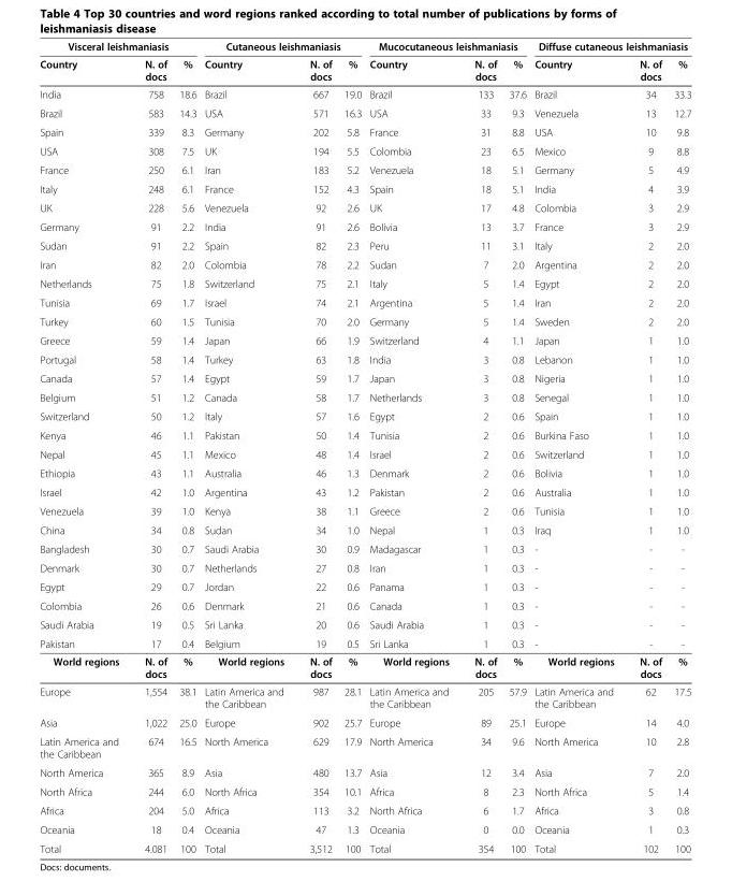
<table><thead><tr><td colspan="3">Visceral leishmaniasis</td><td colspan="3">Cutaneous leishmaniasis</td><td colspan="3">Mucocutaneous leishmaniasis</td><td colspan="3">Diffuse cutaneous leishmaniasis</td></tr><tr><td>Country</td><td>N. of docs</td><td>%</td><td>Country</td><td>N. of docs</td><td>%</td><td>Country</td><td>N. of docs</td><td>%</td><td>Country</td><td>N. of docs</td><td>%</td></tr></thead><tbody><tr><td>India</td><td>758</td><td>18.6</td><td>Brazil</td><td>667</td><td>19.0</td><td>Brazil</td><td>133</td><td>37.6</td><td>Brazil</td><td>34</td><td>33.3</td></tr><tr><td>Brazil</td><td>583</td><td>14.3</td><td>USA</td><td>571</td><td>16.3</td><td>USA</td><td>33</td><td>9.3</td><td>Venezuela</td><td>13</td><td>12.7</td></tr><tr><td>Spain</td><td>339</td><td>8.3</td><td>Germany</td><td>202</td><td>5.8</td><td>France</td><td>31</td><td>8.8</td><td>USA</td><td>10</td><td>9.8</td></tr><tr><td>USA</td><td>308</td><td>7.5</td><td>UK</td><td>194</td><td>5.5</td><td>Colombia</td><td>23</td><td>6.5</td><td>Mexico</td><td>9</td><td>8.8</td></tr><tr><td>France</td><td>250</td><td>6.1</td><td>Iran</td><td>183</td><td>5.2</td><td>Venezuela</td><td>18</td><td>5.1</td><td>Germany</td><td>5</td><td>4.9</td></tr><tr><td>Italy</td><td>248</td><td>6.1</td><td>France</td><td>152</td><td>4.3</td><td>Spain</td><td>18</td><td>5.1</td><td>India</td><td>4</td><td>3.9</td></tr><tr><td>UK</td><td>228</td><td>5.6</td><td>Venezuela</td><td>92</td><td>2.6</td><td>UK</td><td>17</td><td>4.8</td><td>Colombia</td><td>3</td><td>2.9</td></tr><tr><td>Germany</td><td>91</td><td>2.2</td><td>India</td><td>91</td><td>2.6</td><td>Bolivia</td><td>13</td><td>3.7</td><td>France</td><td>3</td><td>2.9</td></tr><tr><td>Sudan</td><td>91</td><td>2.2</td><td>Spain</td><td>82</td><td>2.3</td><td>Peru</td><td>11</td><td>3.1</td><td>Italy</td><td>2</td><td>2.0</td></tr><tr><td>Iran</td><td>82</td><td>2.0</td><td>Colombia</td><td>78</td><td>2.2</td><td>Sudan</td><td>7</td><td>2.0</td><td>Argentina</td><td>2</td><td>2.0</td></tr><tr><td>Netherlands</td><td>75</td><td>1.8</td><td>Switzerland</td><td>75</td><td>2.1</td><td>Italy</td><td>5</td><td>1.4</td><td>Egypt</td><td>2</td><td>2.0</td></tr><tr><td>Tunisia</td><td>69</td><td>1.7</td><td>Israel</td><td>74</td><td>2.1</td><td>Argentina</td><td>5</td><td>1.4</td><td>Iran</td><td>2</td><td>2.0</td></tr><tr><td>Turkey</td><td>60</td><td>1.5</td><td>Tunisia</td><td>70</td><td>2.0</td><td>Germany</td><td>5</td><td>1.4</td><td>Sweden</td><td>2</td><td>2.0</td></tr><tr><td>Greece</td><td>59</td><td>1.4</td><td>Japan</td><td>66</td><td>1.9</td><td>Switzerland</td><td>4</td><td>1.1</td><td>Japan</td><td>1</td><td>1.0</td></tr><tr><td>Portugal</td><td>58</td><td>1.4</td><td>Turkey</td><td>63</td><td>1.8</td><td>India</td><td>3</td><td>0.8</td><td>Lebanon</td><td>1</td><td>1.0</td></tr><tr><td>Canada</td><td>57</td><td>1.4</td><td>Egypt</td><td>59</td><td>1.7</td><td>Japan</td><td>3</td><td>0.8</td><td>Nigeria</td><td>1</td><td>1.0</td></tr><tr><td>Belgium</td><td>51</td><td>1.2</td><td>Canada</td><td>58</td><td>1.7</td><td>Netherlands</td><td>3</td><td>0.8</td><td>Senegal</td><td>1</td><td>1.0</td></tr><tr><td>Switzerland</td><td>50</td><td>1.2</td><td>Italy</td><td>57</td><td>1.6</td><td>Egypt</td><td>2</td><td>0.6</td><td>Spain</td><td>1</td><td>1.0</td></tr><tr><td>Kenya</td><td>46</td><td>1.1</td><td>Pakistan</td><td>50</td><td>1.4</td><td>Tunisia</td><td>2</td><td>0.6</td><td>Burkina Faso</td><td>1</td><td>1.0</td></tr><tr><td>Nepal</td><td>45</td><td>1.1</td><td>Mexico</td><td>48</td><td>1.4</td><td>Israel</td><td>2</td><td>0.6</td><td>Switzerland</td><td>1</td><td>1.0</td></tr><tr><td>Ethiopia</td><td>43</td><td>1.1</td><td>Australia</td><td>46</td><td>1.3</td><td>Denmark</td><td>2</td><td>0.6</td><td>Bolivia</td><td>1</td><td>1.0</td></tr><tr><td>Israel</td><td>42</td><td>1.0</td><td>Argentina</td><td>43</td><td>1.2</td><td>Pakistan</td><td>2</td><td>0.6</td><td>Australia</td><td>1</td><td>1.0</td></tr><tr><td>Venezuela</td><td>39</td><td>1.0</td><td>Kenya</td><td>38</td><td>1.1</td><td>Greece</td><td>2</td><td>0.6</td><td>Tunisia</td><td>1</td><td>1.0</td></tr><tr><td>China</td><td>34</td><td>0.8</td><td>Sudan</td><td>34</td><td>1.0</td><td>Nepal</td><td>1</td><td>0.3</td><td>Iraq</td><td>1</td><td>1.0</td></tr><tr><td>Bangladesh</td><td>30</td><td>0.7</td><td>Saudi Arabia</td><td>30</td><td>0.9</td><td>Madagascar</td><td>1</td><td>0.3</td><td>-</td><td>-</td><td>-</td></tr><tr><td>Denmark</td><td>30</td><td>0.7</td><td>Netherlands</td><td>27</td><td>0.8</td><td>Iran</td><td>1</td><td>0.3</td><td>-</td><td>-</td><td>-</td></tr><tr><td>Egypt</td><td>29</td><td>0.7</td><td>Jordan</td><td>22</td><td>0.6</td><td>Panama</td><td>1</td><td>0.3</td><td>-</td><td>-</td><td>-</td></tr><tr><td>Colombia</td><td>26</td><td>0.6</td><td>Denmark</td><td>21</td><td>0.6</td><td>Canada</td><td>1</td><td>0.3</td><td>-</td><td>-</td><td>-</td></tr><tr><td>Saudi Arabia</td><td>19</td><td>0.5</td><td>Sri Lanka</td><td>20</td><td>0.6</td><td>Saudi Arabia</td><td>1</td><td>0.3</td><td>-</td><td>-</td><td>-</td></tr><tr><td>Pakistan</td><td>17</td><td>0.4</td><td>Belgium</td><td>19</td><td>0.5</td><td>Sri Lanka</td><td>1</td><td>0.3</td><td>-</td><td>-</td><td>-</td></tr><tr><td>World regions</td><td>N. of docs</td><td>%</td><td>World regions</td><td>N. of docs</td><td>%</td><td>World regions</td><td>N. of docs</td><td>%</td><td>World regions</td><td>N. of docs</td><td>%</td></tr><tr><td>Europe</td><td>1,554</td><td>38.1</td><td>Latin America and the Caribbean</td><td>987</td><td>28.1</td><td>Latin America and the Caribbean</td><td>205</td><td>57.9</td><td>Latin America and the Caribbean</td><td>62</td><td>17.5</td></tr><tr><td>Asia</td><td>1,022</td><td>25.0</td><td>Europe</td><td>902</td><td>25.7</td><td>Europe</td><td>89</td><td>25.1</td><td>Europe</td><td>14</td><td>4.0</td></tr><tr><td>Latin America and the Caribbean</td><td>674</td><td>16.5</td><td>North America</td><td>629</td><td>17.9</td><td>North America</td><td>34</td><td>9.6</td><td>North America</td><td>10</td><td>2.8</td></tr><tr><td>North America</td><td>365</td><td>8.9</td><td>Asia</td><td>480</td><td>13.7</td><td>Asia</td><td>12</td><td>3.4</td><td>Asia</td><td>7</td><td>2.0</td></tr><tr><td>North Africa</td><td>244</td><td>6.0</td><td>North Africa</td><td>354</td><td>10.1</td><td>Africa</td><td>8</td><td>2.3</td><td>North Africa</td><td>5</td><td>1.4</td></tr><tr><td>Africa</td><td>204</td><td>5.0</td><td>Africa</td><td>113</td><td>3.2</td><td>North Africa</td><td>6</td><td>1.7</td><td>Africa</td><td>3</td><td>0.8</td></tr><tr><td>Oceania</td><td>18</td><td>0.4</td><td>Oceania</td><td>47</td><td>1.3</td><td>Oceania</td><td>0</td><td>0.0</td><td>Oceania</td><td>1</td><td>0.3</td></tr><tr><td>Total</td><td>4.081</td><td>100</td><td>Total</td><td>3,512</td><td>100</td><td>Total</td><td>354</td><td>100</td><td>Total</td><td>102</td><td>100</td></tr></tbody></table>